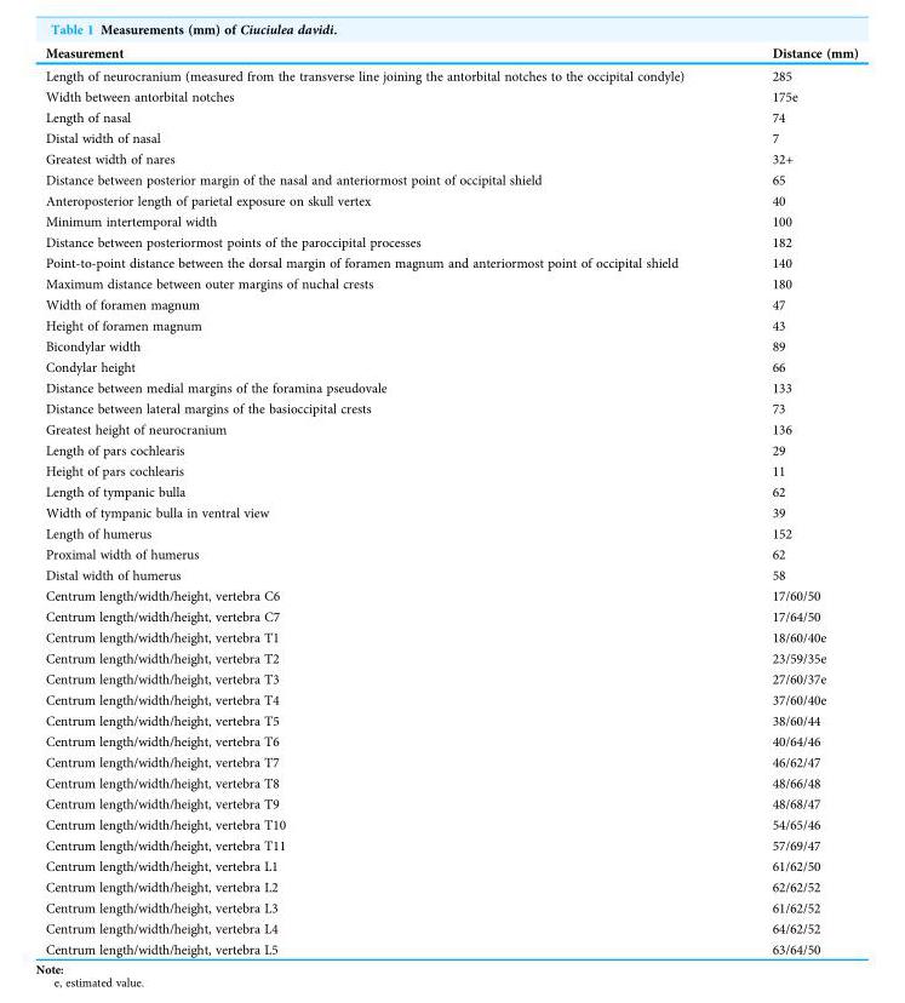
<table><thead><tr><td>Measurement</td><td>Distance (mm)</td></tr></thead><tbody><tr><td>Length of neurocranium (measured from the transverse line joining the antorbital notches to the occipital condyle)</td><td>285</td></tr><tr><td>Width between antorbital notches</td><td>175e</td></tr><tr><td>Length of nasal</td><td>74</td></tr><tr><td>Distal width of nasal</td><td>7</td></tr><tr><td>Greatest width of nares</td><td>32+</td></tr><tr><td>Distance between posterior margin of the nasal and anteriormost point of occipital shield</td><td>65</td></tr><tr><td>Anteroposterior length of parietal exposure on skull vertex</td><td>40</td></tr><tr><td>Minimum intertemporal width</td><td>100</td></tr><tr><td>Distance between posteriormost points of the paroccipital processes</td><td>182</td></tr><tr><td>Point-to-point distance between the dorsal margin of foramen magnum and anteriormost point of occipital shield</td><td>140</td></tr><tr><td>Maximum distance between outer margins of nuchal crests</td><td>180</td></tr><tr><td>Width of foramen magnum</td><td>47</td></tr><tr><td>Height of foramen magnum</td><td>43</td></tr><tr><td>Bicondylar width</td><td>89</td></tr><tr><td>Condylar height</td><td>66</td></tr><tr><td>Distance between medial margins of the foramina pseudovale</td><td>133</td></tr><tr><td>Distance between lateral margins of the basioccipital crests</td><td>73</td></tr><tr><td>Greatest height of neurocranium</td><td>136</td></tr><tr><td>Length of pars cochlearis</td><td>29</td></tr><tr><td>Height of pars cochlearis</td><td>11</td></tr><tr><td>Length of tympanic bulla</td><td>62</td></tr><tr><td>Width of tympanic bulla in ventral view</td><td>39</td></tr><tr><td>Length of humerus</td><td>152</td></tr><tr><td>Proximal width of humerus</td><td>62</td></tr><tr><td>Distal width of humerus</td><td>58</td></tr><tr><td>Centrum length/width/height, vertebra C6</td><td>17/60/50</td></tr><tr><td>Centrum length/width/height, vertebra C7</td><td>17/64/50</td></tr><tr><td>Centrum length/width/height, vertebra T1</td><td>18/60/40e</td></tr><tr><td>Centrum length/width/height, vertebra T2</td><td>23/59/35e</td></tr><tr><td>Centrum length/width/height, vertebra T3</td><td>27/60/37e</td></tr><tr><td>Centrum length/width/height, vertebra T4</td><td>37/60/40e</td></tr><tr><td>Centrum length/width/height, vertebra T5</td><td>38/60/44</td></tr><tr><td>Centrum length/width/height, vertebra T6</td><td>40/64/46</td></tr><tr><td>Centrum length/width/height, vertebra T7</td><td>46/62/47</td></tr><tr><td>Centrum length/width/height, vertebra T8</td><td>48/66/48</td></tr><tr><td>Centrum length/width/height, vertebra T9</td><td>48/68/47</td></tr><tr><td>Centrum length/width/height, vertebra T10</td><td>54/65/46</td></tr><tr><td>Centrum length/width/height, vertebra T11</td><td>57/69/47</td></tr><tr><td>Centrum length/width/height, vertebra L1</td><td>61/62/50</td></tr><tr><td>Centrum length/width/height, vertebra L2</td><td>62/62/52</td></tr><tr><td>Centrum length/width/height, vertebra L3</td><td>61/62/52</td></tr><tr><td>Centrum length/width/height, vertebra L4</td><td>64/62/52</td></tr><tr><td>Centrum length/width/height, vertebra L5</td><td>63/64/50</td></tr></tbody></table>